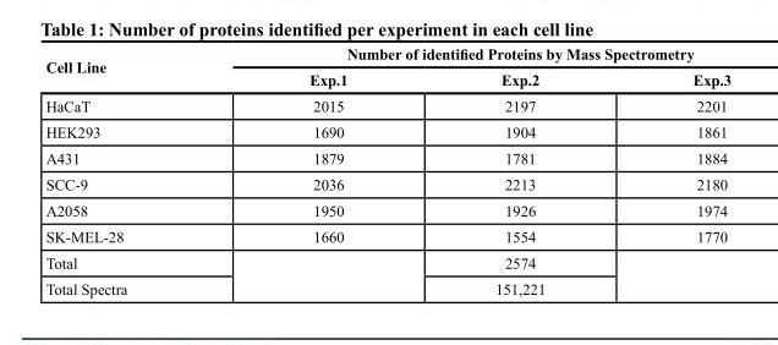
<table><thead><tr><td rowspan="2">Cell Line</td><td colspan="3">Number of identified Proteins by Mass Spectrometry</td></tr><tr><td>Exp.1</td><td>Exp.2</td><td>Exp.3</td></tr></thead><tbody><tr><td>HaCaT</td><td>2015</td><td>2197</td><td>2201</td></tr><tr><td>HEK293</td><td>1690</td><td>1904</td><td>1861</td></tr><tr><td>A431</td><td>1879</td><td>1781</td><td>1884</td></tr><tr><td>SCC-9</td><td>2036</td><td>2213</td><td>2180</td></tr><tr><td>A2058</td><td>1950</td><td>1926</td><td>1974</td></tr><tr><td>SK-MEL-28</td><td>1660</td><td>1554</td><td>1770</td></tr><tr><td>Total</td><td rowspan="2"></td><td>2574</td><td rowspan="2"></td></tr><tr><td>Total Spectra</td><td>151,221</td></tr></tbody></table>